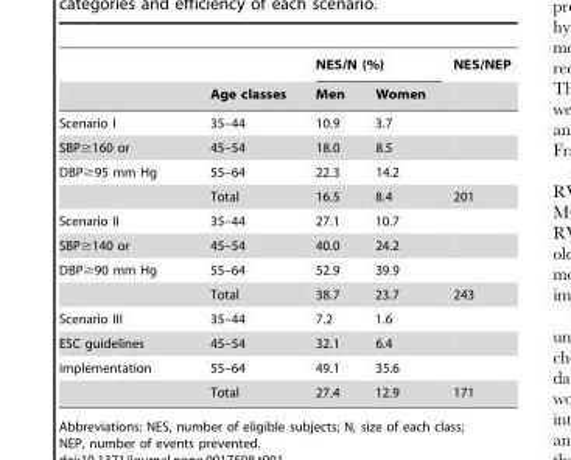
<table><thead><tr><td rowspan="2"></td><td rowspan="2">Age classes</td><td colspan="2">NES/N (%)</td><td rowspan="2">NES/NEP</td></tr><tr><td>Men</td><td>Women</td></tr></thead><tbody><tr><td>Scenario I</td><td>35–44</td><td>10.9</td><td>3.7</td><td></td></tr><tr><td>SBP≥160 or</td><td>45–54</td><td>18.0</td><td>8.5</td><td></td></tr><tr><td rowspan="2">DBP≥95 mm Hg</td><td>55–64</td><td>22.3</td><td>14.2</td><td></td></tr><tr><td>Total</td><td>16.5</td><td>8.4</td><td>201</td></tr><tr><td>Scenario II</td><td>35–44</td><td>27.1</td><td>10.7</td><td></td></tr><tr><td>SBP≥140 or</td><td>45–54</td><td>40.0</td><td>24.2</td><td></td></tr><tr><td rowspan="2">DBP≥90 mm Hg</td><td>55–64</td><td>52.9</td><td>39.9</td><td></td></tr><tr><td>Total</td><td>38.7</td><td>23.7</td><td>243</td></tr><tr><td>Scenario III</td><td>35–44</td><td>7.2</td><td>1.6</td><td></td></tr><tr><td>ESC guidelines</td><td>45–54</td><td>32.1</td><td>6.4</td><td></td></tr><tr><td rowspan="2">implementation</td><td>55–64</td><td>49.1</td><td>35.6</td><td></td></tr><tr><td>Total</td><td>27.4</td><td>12.9</td><td>171</td></tr></tbody></table>